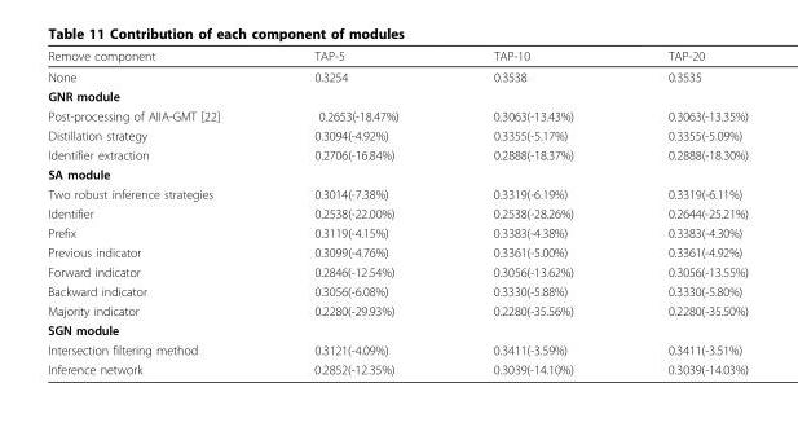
<table><thead><tr><td>Remove component</td><td>TAP-5</td><td>TAP-10</td><td>TAP-20</td></tr></thead><tbody><tr><td>None</td><td>0.3254</td><td>0.3538</td><td>0.3535</td></tr><tr><td colspan="4">GNR module</td></tr><tr><td>Post-processing of AIIA-GMT [22]</td><td>0.2653(-18.47%)</td><td>0.3063(-13.43%)</td><td>0.3063(-13.35%)</td></tr><tr><td>Distillation strategy</td><td>0.3094(-4.92%)</td><td>0.3355(-5.17%)</td><td>0.3355(-5.09%)</td></tr><tr><td>Identifier extraction</td><td>0.2706(-16.84%)</td><td>0.2888(-18.37%)</td><td>0.2888(-18.30%)</td></tr><tr><td colspan="4">SA module</td></tr><tr><td>Two robust inference strategies</td><td>0.3014(-7.38%)</td><td>0.3319(-6.19%)</td><td>0.3319(-6.11%)</td></tr><tr><td>Identifier</td><td>0.2538(-22.00%)</td><td>0.2538(-28.26%)</td><td>0.2644(-25.21%)</td></tr><tr><td>Prefix</td><td>0.3119(-4.15%)</td><td>0.3383(-4.38%)</td><td>0.3383(-4.30%)</td></tr><tr><td>Previous indicator</td><td>0.3099(-4.76%)</td><td>0.3361(-5.00%)</td><td>0.3361(-4.92%)</td></tr><tr><td>Forward indicator</td><td>0.2846(-12.54%)</td><td>0.3056(-13.62%)</td><td>0.3056(-13.55%)</td></tr><tr><td>Backward indicator</td><td>0.3056(-6.08%)</td><td>0.3330(-5.88%)</td><td>0.3330(-5.80%)</td></tr><tr><td>Majority indicator</td><td>0.2280(-29.93%)</td><td>0.2280(-35.56%)</td><td>0.2280(-35.50%)</td></tr><tr><td colspan="4">SGN module</td></tr><tr><td>Intersection filtering method</td><td>0.3121(-4.09%)</td><td>0.3411(-3.59%)</td><td>0.3411(-3.51%)</td></tr><tr><td>Inference network</td><td>0.2852(-12.35%)</td><td>0.3039(-14.10%)</td><td>0.3039(-14.03%)</td></tr></tbody></table>